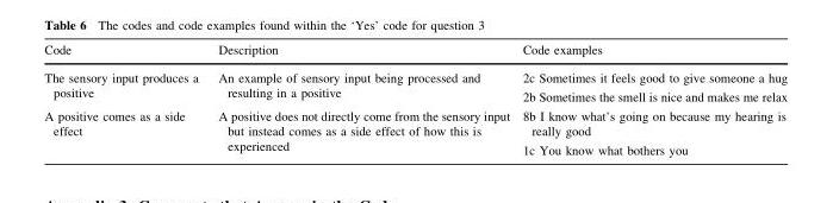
<table><thead><tr><td>Code</td><td>Description</td><td>Code examples</td></tr></thead><tbody><tr><td rowspan="2">The sensory input produces a positive</td><td rowspan="2">An example of sensory input being processed and resulting in a positive</td><td>2c Sometimes it feels good to give someone a hug</td></tr><tr><td>2b Sometimes the smell is nice and makes me relax</td></tr><tr><td rowspan="2">A positive comes as a side effect</td><td rowspan="2">A positive does not directly come from the sensory input but instead comes as a side effect of how this is experienced</td><td>8b I know what’s going on because my hearing is really good</td></tr><tr><td>1c You know what bothers you</td></tr></tbody></table>